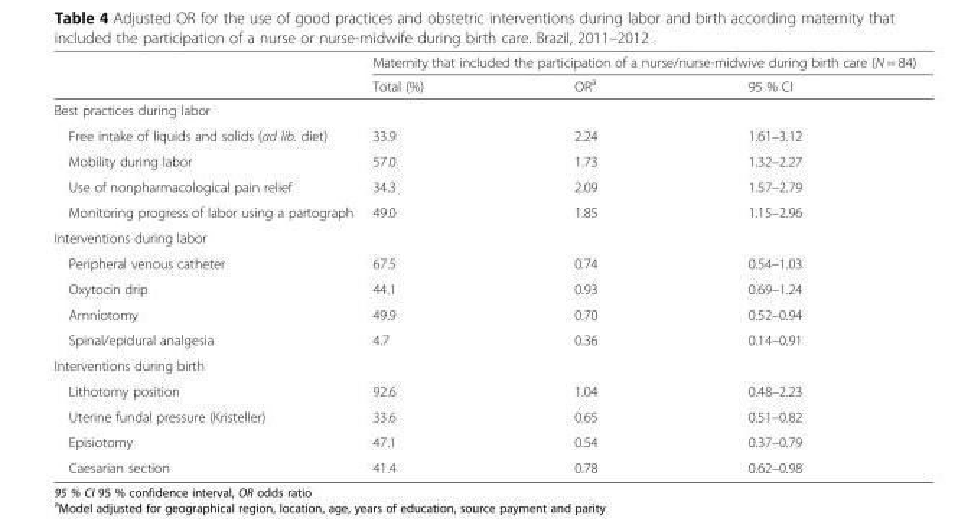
<table><thead><tr><td rowspan="2"></td><td colspan="3">Maternity that included the participation of a nurse/nurse-midwive during birth care (N = 84)</td></tr><tr><td>Total (%)</td><td>OR<sup>a</sup></td><td>95 % CI</td></tr></thead><tbody><tr><td colspan="4">Best practices during labor</td></tr><tr><td>Free intake of liquids and solids (ad lib. diet)</td><td>33.9</td><td>2.24</td><td>1.61–3.12</td></tr><tr><td>Mobility during labor</td><td>57.0</td><td>1.73</td><td>1.32–2.27</td></tr><tr><td>Use of nonpharmacological pain relief</td><td>34.3</td><td>2.09</td><td>1.57–2.79</td></tr><tr><td>Monitoring progress of labor using a partograph</td><td>49.0</td><td>1.85</td><td>1.15–2.96</td></tr><tr><td colspan="4">Interventions during labor</td></tr><tr><td>Peripheral venous catheter</td><td>67.5</td><td>0.74</td><td>0.54–1.03</td></tr><tr><td>Oxytocin drip</td><td>44.1</td><td>0.93</td><td>0.69–1.24</td></tr><tr><td>Amniotomy</td><td>49.9</td><td>0.70</td><td>0.52–0.94</td></tr><tr><td>Spinal/epidural analgesia</td><td>4.7</td><td>0.36</td><td>0.14–0.91</td></tr><tr><td colspan="4">Interventions during birth</td></tr><tr><td>Lithotomy position</td><td>92.6</td><td>1.04</td><td>0.48–2.23</td></tr><tr><td>Uterine fundal pressure (Kristeller)</td><td>33.6</td><td>0.65</td><td>0.51–0.82</td></tr><tr><td>Episiotomy</td><td>47.1</td><td>0.54</td><td>0.37–0.79</td></tr><tr><td>Caesarian section</td><td>41.4</td><td>0.78</td><td>0.62–0.98</td></tr></tbody></table>